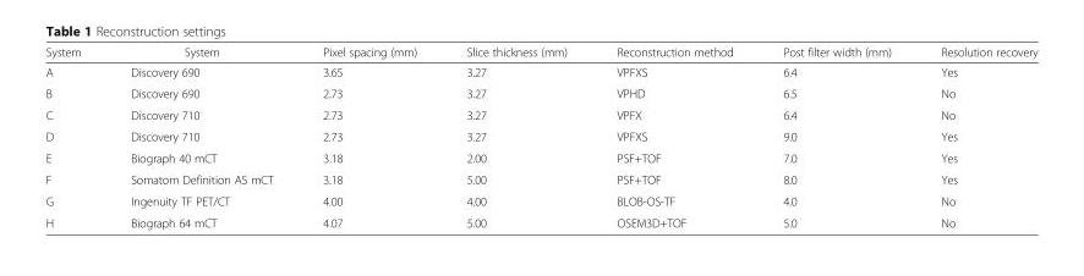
<table><thead><tr><td>System</td><td>System</td><td>Pixel spacing (mm)</td><td>Slice thickness (mm)</td><td>Reconstruction method</td><td>Post filter width (mm)</td><td>Resolution recovery</td></tr></thead><tbody><tr><td>A</td><td>Discovery 690</td><td>3.65</td><td>3.27</td><td>VPFXS</td><td>6.4</td><td>Yes</td></tr><tr><td>B</td><td>Discovery 690</td><td>2.73</td><td>3.27</td><td>VPHD</td><td>6.5</td><td>No</td></tr><tr><td>C</td><td>Discovery 710</td><td>2.73</td><td>3.27</td><td>VPFX</td><td>6.4</td><td>No</td></tr><tr><td>D</td><td>Discovery 710</td><td>2.73</td><td>3.27</td><td>VPFXS</td><td>9.0</td><td>Yes</td></tr><tr><td>E</td><td>Biograph 40 mCT</td><td>3.18</td><td>2.00</td><td>PSF+TOF</td><td>7.0</td><td>Yes</td></tr><tr><td>F</td><td>Somatom Definition AS mCT</td><td>3.18</td><td>5.00</td><td>PSF+TOF</td><td>8.0</td><td>Yes</td></tr><tr><td>G</td><td>Ingenuity TF PET/CT</td><td>4.00</td><td>4.00</td><td>BLOB-OS-TF</td><td>4.0</td><td>No</td></tr><tr><td>H</td><td>Biograph 64 mCT</td><td>4.07</td><td>5.00</td><td>OSEM3D+TOF</td><td>5.0</td><td>No</td></tr></tbody></table>